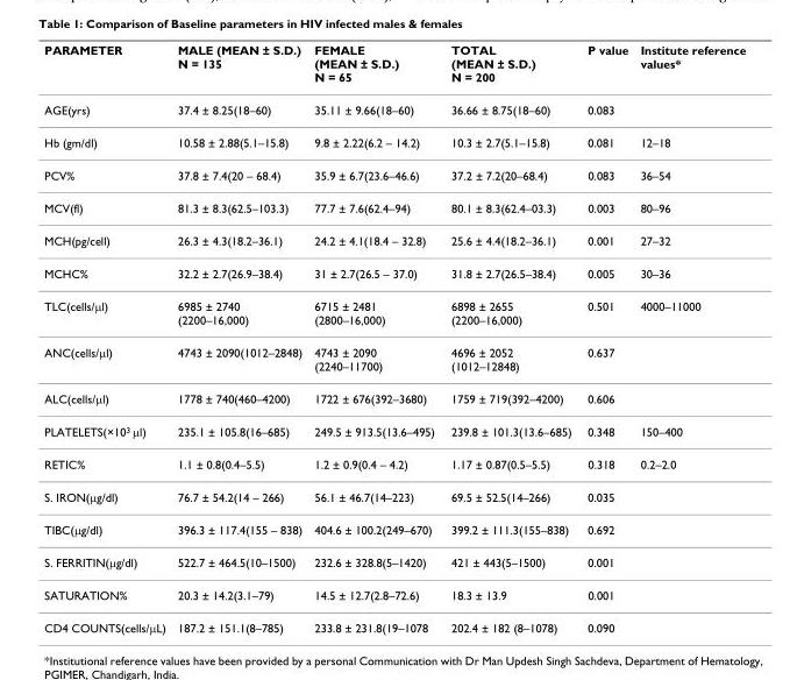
<table><thead><tr><td>PARAMETER</td><td>MALE (MEAN ± S.D.) N = 135</td><td>FEMALE (MEAN ± S.D.) N = 65</td><td>TOTAL (MEAN ± S.D.) N = 200</td><td>P value</td><td>Institute reference values*</td></tr></thead><tbody><tr><td>AGE(yrs)</td><td>37.4 ± 8.25(18–60)</td><td>35.11 ± 9.66(18–60)</td><td>36.66 ± 8.75(18–60)</td><td>0.083</td><td></td></tr><tr><td>Hb (gm/dl)</td><td>10.58 ± 2.88(5.1–15.8)</td><td>9.8 ± 2.22(6.2 – 14.2)</td><td>10.3 ± 2.7(5.1–15.8)</td><td>0.081</td><td>12–18</td></tr><tr><td>PCV%</td><td>37.8 ± 7.4(20 – 68.4)</td><td>35.9 ± 6.7(23.6–46.6)</td><td>37.2 ± 7.2(20–68.4)</td><td>0.083</td><td>36–54</td></tr><tr><td>MCV(fl)</td><td>81.3 ± 8.3(62.5–103.3)</td><td>77.7 ± 7.6(62.4–94)</td><td>80.1 ± 8.3(62.4–03.3)</td><td>0.003</td><td>80–96</td></tr><tr><td>MCH(pg/cell)</td><td>26.3 ± 4.3(18.2–36.1)</td><td>24.2 ± 4.1(18.4 – 32.8)</td><td>25.6 ± 4.4(18.2–36.1)</td><td>0.001</td><td>27–32</td></tr><tr><td>MCHC%</td><td>32.2 ± 2.7(26.9–38.4)</td><td>31 ± 2.7(26.5 – 37.0)</td><td>31.8 ± 2.7(26.5–38.4)</td><td>0.005</td><td>30–36</td></tr><tr><td>TLC(cells/μl)</td><td>6985 ± 2740 (2200–16,000)</td><td>6715 ± 2481 (2800–16,000)</td><td>6898 ± 2655 (2200–16,000)</td><td>0.501</td><td>4000–11000</td></tr><tr><td>ANC(cells/μl)</td><td>4743 ± 2090(1012–2848)</td><td>4743 ± 2090 (2240–11700)</td><td>4696 ± 2052 (1012–12848)</td><td>0.637</td><td></td></tr><tr><td>ALC(cells/μl)</td><td>1778 ± 740(460–4200)</td><td>1722 ± 676(392–3680)</td><td>1759 ± 719(392–4200)</td><td>0.606</td><td></td></tr><tr><td>PLATELETS(×10<sup>3</sup> μl)</td><td>235.1 ± 105.8(16–685)</td><td>249.5 ± 913.5(13.6–495)</td><td>239.8 ± 101.3(13.6–685)</td><td>0.348</td><td>150–400</td></tr><tr><td>RETIC%</td><td>1.1 ± 0.8(0.4–5.5)</td><td>1.2 ± 0.9(0.4 – 4.2)</td><td>1.17 ± 0.87(0.5–5.5)</td><td>0.318</td><td>0.2–2.0</td></tr><tr><td>S. IRON(μg/dl)</td><td>76.7 ± 54.2(14 – 266)</td><td>56.1 ± 46.7(14–223)</td><td>69.5 ± 52.5(14–266)</td><td>0.035</td><td></td></tr><tr><td>TIBC(μg/dl)</td><td>396.3 ± 117.4(155 – 838)</td><td>404.6 ± 100.2(249–670)</td><td>399.2 ± 111.3(155–838)</td><td>0.692</td><td></td></tr><tr><td>S. FERRITIN(μg/dl)</td><td>522.7 ± 464.5(10–1500)</td><td>232.6 ± 328.8(5–1420)</td><td>421 ± 443(5–1500)</td><td>0.001</td><td></td></tr><tr><td>SATURATION%</td><td>20.3 ± 14.2(3.1–79)</td><td>14.5 ± 12.7(2.8–72.6)</td><td>18.3 ± 13.9</td><td>0.001</td><td></td></tr><tr><td>CD4 COUNTS(cells/μL)</td><td>187.2 ± 151.1(8–785)</td><td>233.8 ± 231.8(19–1078</td><td>202.4 ± 182 (8–1078)</td><td>0.090</td><td></td></tr></tbody></table>